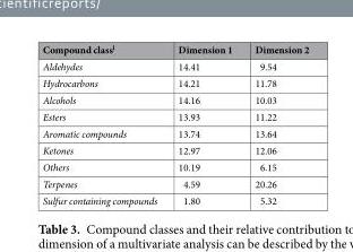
<table><thead><tr><td>Compound class<sup>l</sup></td><td>Dimension 1</td><td>Dimension 2</td></tr></thead><tbody><tr><td>Aldehydes</td><td>14.41</td><td>9.54</td></tr><tr><td>Hydrocarbons</td><td>14.21</td><td>11.78</td></tr><tr><td>Alcohols</td><td>14.16</td><td>10.03</td></tr><tr><td>Esters</td><td>13.93</td><td>11.22</td></tr><tr><td>Aromatic compounds</td><td>13.74</td><td>13.64</td></tr><tr><td>Ketones</td><td>12.97</td><td>12.06</td></tr><tr><td>Others</td><td>10.19</td><td>6.15</td></tr><tr><td>Terpenes</td><td>4.59</td><td>20.26</td></tr><tr><td>Sulfur containing compounds</td><td>1.80</td><td>5.32</td></tr></tbody></table>